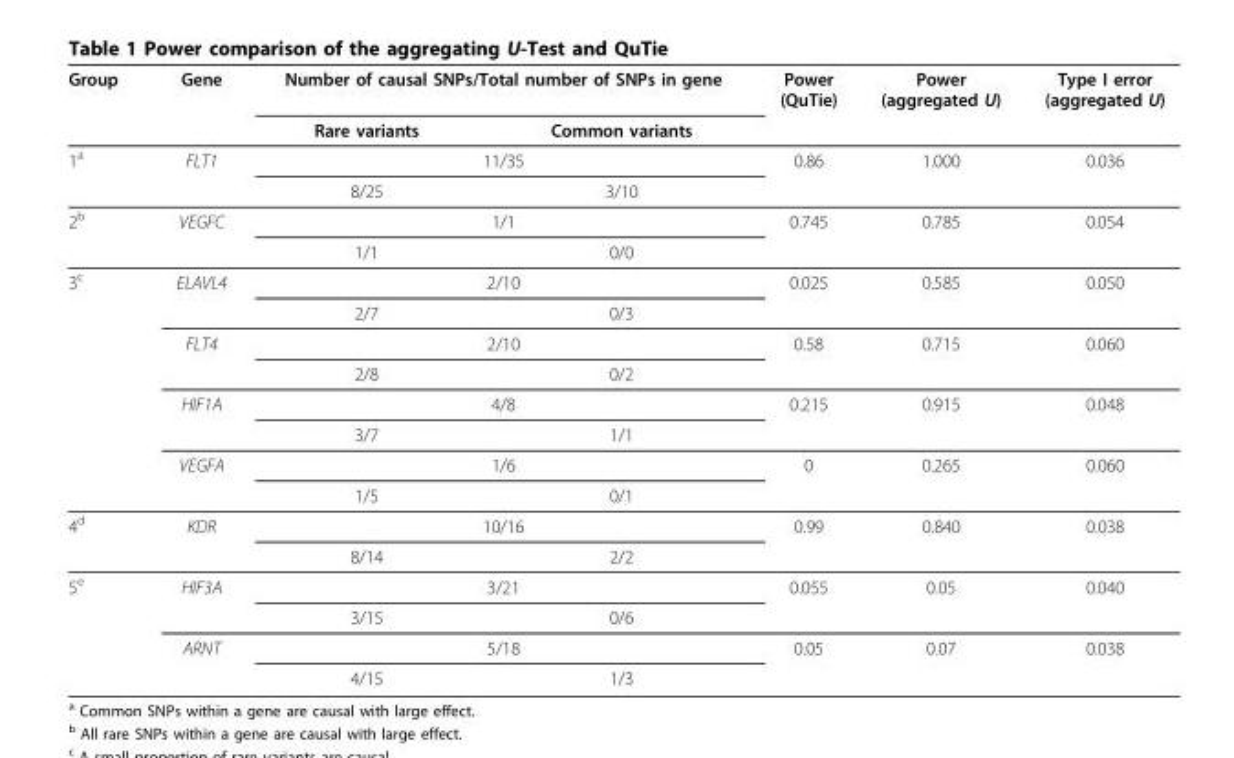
<table><thead><tr><td rowspan="2">Group</td><td rowspan="2">Gene</td><td colspan="2">Number of causal SNPs/Total number of SNPs in gene</td><td rowspan="2">Power (QuTie)</td><td rowspan="2">Power (aggregated U)</td><td rowspan="2">Type I error (aggregated U)</td></tr><tr><td>Rare variants</td><td>Common variants</td></tr></thead><tbody><tr><td rowspan="2">1<sup>a</sup></td><td>FLT1</td><td colspan="2">11/35</td><td>0.86</td><td>1.000</td><td>0.036</td></tr><tr><td></td><td>8/25</td><td>3/10</td><td></td><td></td><td></td></tr><tr><td rowspan="2">2<sup>b</sup></td><td>VEGFC</td><td colspan="2">1/1</td><td>0.745</td><td>0.785</td><td>0.054</td></tr><tr><td></td><td>1/1</td><td>0/0</td><td></td><td></td><td></td></tr><tr><td rowspan="8">3<sup>c</sup></td><td>ELAVL4</td><td colspan="2">2/10</td><td>0.025</td><td>0.585</td><td>0.050</td></tr><tr><td></td><td>2/7</td><td>0/3</td><td></td><td></td><td></td></tr><tr><td>FLT4</td><td colspan="2">2/10</td><td>0.58</td><td>0.715</td><td>0.060</td></tr><tr><td></td><td>2/8</td><td>0/2</td><td></td><td></td><td></td></tr><tr><td>HIF1A</td><td colspan="2">4/8</td><td>0.215</td><td>0.915</td><td>0.048</td></tr><tr><td></td><td>3/7</td><td>1/1</td><td></td><td></td><td></td></tr><tr><td>VEGFA</td><td colspan="2">1/6</td><td>0</td><td>0.265</td><td>0.060</td></tr><tr><td></td><td>1/5</td><td>0/1</td><td></td><td></td><td></td></tr><tr><td rowspan="2">4<sup>d</sup></td><td>KDR</td><td colspan="2">10/16</td><td>0.99</td><td>0.840</td><td>0.038</td></tr><tr><td></td><td>8/14</td><td>2/2</td><td></td><td></td><td></td></tr><tr><td rowspan="4">5<sup>e</sup></td><td>HIF3A</td><td colspan="2">3/21</td><td>0.055</td><td>0.05</td><td>0.040</td></tr><tr><td></td><td>3/15</td><td>0/6</td><td></td><td></td><td></td></tr><tr><td>ARNT</td><td colspan="2">5/18</td><td>0.05</td><td>0.07</td><td>0.038</td></tr><tr><td></td><td>4/15</td><td>1/3</td><td></td><td></td><td></td></tr></tbody></table>